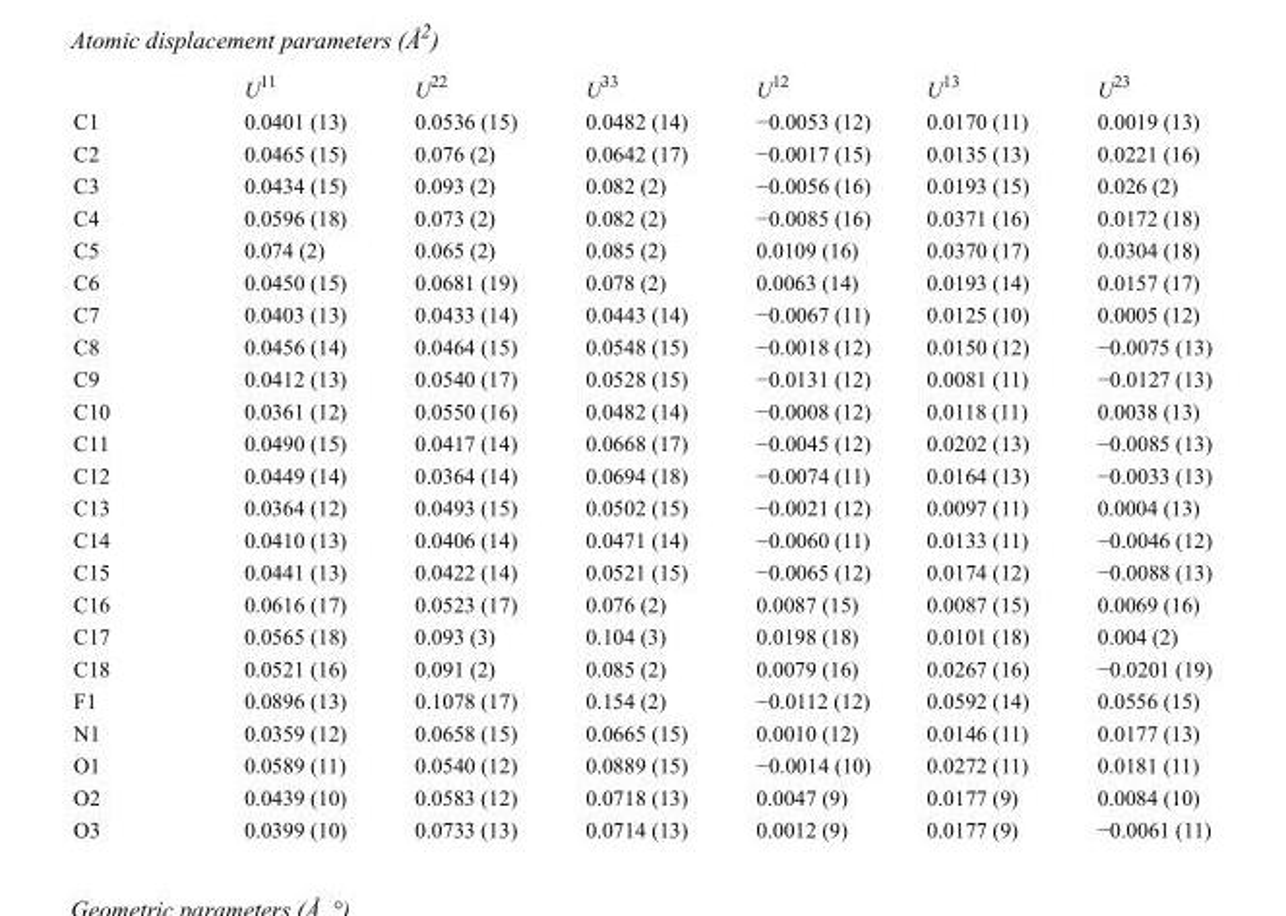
<table><thead><tr><td></td><td>U<sup>11</sup></td><td>U<sup>22</sup></td><td>U<sup>33</sup></td><td>U<sup>12</sup></td><td>U<sup>13</sup></td><td>U<sup>23</sup></td></tr></thead><tbody><tr><td>C1</td><td>0.0401 (13)</td><td>0.0536 (15)</td><td>0.0482 (14)</td><td>−0.0053 (12)</td><td>0.0170 (11)</td><td>0.0019 (13)</td></tr><tr><td>C2</td><td>0.0465 (15)</td><td>0.076 (2)</td><td>0.0642 (17)</td><td>−0.0017 (15)</td><td>0.0135 (13)</td><td>0.0221 (16)</td></tr><tr><td>C3</td><td>0.0434 (15)</td><td>0.093 (2)</td><td>0.082 (2)</td><td>−0.0056 (16)</td><td>0.0193 (15)</td><td>0.026 (2)</td></tr><tr><td>C4</td><td>0.0596 (18)</td><td>0.073 (2)</td><td>0.082 (2)</td><td>−0.0085 (16)</td><td>0.0371 (16)</td><td>0.0172 (18)</td></tr><tr><td>C5</td><td>0.074 (2)</td><td>0.065 (2)</td><td>0.085 (2)</td><td>0.0109 (16)</td><td>0.0370 (17)</td><td>0.0304 (18)</td></tr><tr><td>C6</td><td>0.0450 (15)</td><td>0.0681 (19)</td><td>0.078 (2)</td><td>0.0063 (14)</td><td>0.0193 (14)</td><td>0.0157 (17)</td></tr><tr><td>C7</td><td>0.0403 (13)</td><td>0.0433 (14)</td><td>0.0443 (14)</td><td>−0.0067 (11)</td><td>0.0125 (10)</td><td>0.0005 (12)</td></tr><tr><td>C8</td><td>0.0456 (14)</td><td>0.0464 (15)</td><td>0.0548 (15)</td><td>−0.0018 (12)</td><td>0.0150 (12)</td><td>−0.0075 (13)</td></tr><tr><td>C9</td><td>0.0412 (13)</td><td>0.0540 (17)</td><td>0.0528 (15)</td><td>−0.0131 (12)</td><td>0.0081 (11)</td><td>−0.0127 (13)</td></tr><tr><td>C10</td><td>0.0361 (12)</td><td>0.0550 (16)</td><td>0.0482 (14)</td><td>−0.0008 (12)</td><td>0.0118 (11)</td><td>0.0038 (13)</td></tr><tr><td>C11</td><td>0.0490 (15)</td><td>0.0417 (14)</td><td>0.0668 (17)</td><td>−0.0045 (12)</td><td>0.0202 (13)</td><td>−0.0085 (13)</td></tr><tr><td>C12</td><td>0.0449 (14)</td><td>0.0364 (14)</td><td>0.0694 (18)</td><td>−0.0074 (11)</td><td>0.0164 (13)</td><td>−0.0033 (13)</td></tr><tr><td>C13</td><td>0.0364 (12)</td><td>0.0493 (15)</td><td>0.0502 (15)</td><td>−0.0021 (12)</td><td>0.0097 (11)</td><td>0.0004 (13)</td></tr><tr><td>C14</td><td>0.0410 (13)</td><td>0.0406 (14)</td><td>0.0471 (14)</td><td>−0.0060 (11)</td><td>0.0133 (11)</td><td>−0.0046 (12)</td></tr><tr><td>C15</td><td>0.0441 (13)</td><td>0.0422 (14)</td><td>0.0521 (15)</td><td>−0.0065 (12)</td><td>0.0174 (12)</td><td>−0.0088 (13)</td></tr><tr><td>C16</td><td>0.0616 (17)</td><td>0.0523 (17)</td><td>0.076 (2)</td><td>0.0087 (15)</td><td>0.0087 (15)</td><td>0.0069 (16)</td></tr><tr><td>C17</td><td>0.0565 (18)</td><td>0.093 (3)</td><td>0.104 (3)</td><td>0.0198 (18)</td><td>0.0101 (18)</td><td>0.004 (2)</td></tr><tr><td>C18</td><td>0.0521 (16)</td><td>0.091 (2)</td><td>0.085 (2)</td><td>0.0079 (16)</td><td>0.0267 (16)</td><td>−0.0201 (19)</td></tr><tr><td>F1</td><td>0.0896 (13)</td><td>0.1078 (17)</td><td>0.154 (2)</td><td>−0.0112 (12)</td><td>0.0592 (14)</td><td>0.0556 (15)</td></tr><tr><td>N1</td><td>0.0359 (12)</td><td>0.0658 (15)</td><td>0.0665 (15)</td><td>0.0010 (12)</td><td>0.0146 (11)</td><td>0.0177 (13)</td></tr><tr><td>O1</td><td>0.0589 (11)</td><td>0.0540 (12)</td><td>0.0889 (15)</td><td>−0.0014 (10)</td><td>0.0272 (11)</td><td>0.0181 (11)</td></tr><tr><td>O2</td><td>0.0439 (10)</td><td>0.0583 (12)</td><td>0.0718 (13)</td><td>0.0047 (9)</td><td>0.0177 (9)</td><td>0.0084 (10)</td></tr><tr><td>O3</td><td>0.0399 (10)</td><td>0.0733 (13)</td><td>0.0714 (13)</td><td>0.0012 (9)</td><td>0.0177 (9)</td><td>−0.0061 (11)</td></tr></tbody></table>